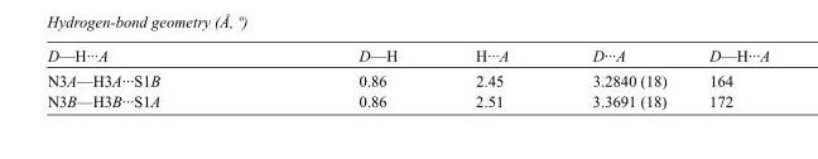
<table><tbody><tr><td>D—H···A</td><td>D—H</td><td>H···A</td><td>D···A</td><td>D—H···A</td></tr><tr><td>N3A—H3A···S1B</td><td>0.86</td><td>2.45</td><td>3.2840 (18)</td><td>164</td></tr><tr><td>N3B—H3B···S1A</td><td>0.86</td><td>2.51</td><td>3.3691 (18)</td><td>172</td></tr></tbody></table>